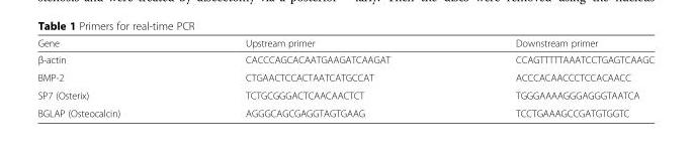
<table><thead><tr><td>Gene</td><td>Upstream primer</td><td>Downstream primer</td></tr></thead><tbody><tr><td>β-actin</td><td>CACCCAGCACAATGAAGATCAAGAT</td><td>CCAGTTTTTAAATCCTGAGTCAAGC</td></tr><tr><td>BMP-2</td><td>CTGAACTCCACTAATCATGCCAT</td><td>ACCCACAACCCTCCACAACC</td></tr><tr><td>SP7 (Osterix)</td><td>TCTGCGGGACTCAACAACTCT</td><td>TGGGAAAAGGGAGGGTAATCA</td></tr><tr><td>BGLAP (Osteocalcin)</td><td>AGGGCAGCGAGGTAGTGAAG</td><td>TCCTGAAAGCCGATGTGGTC</td></tr></tbody></table>